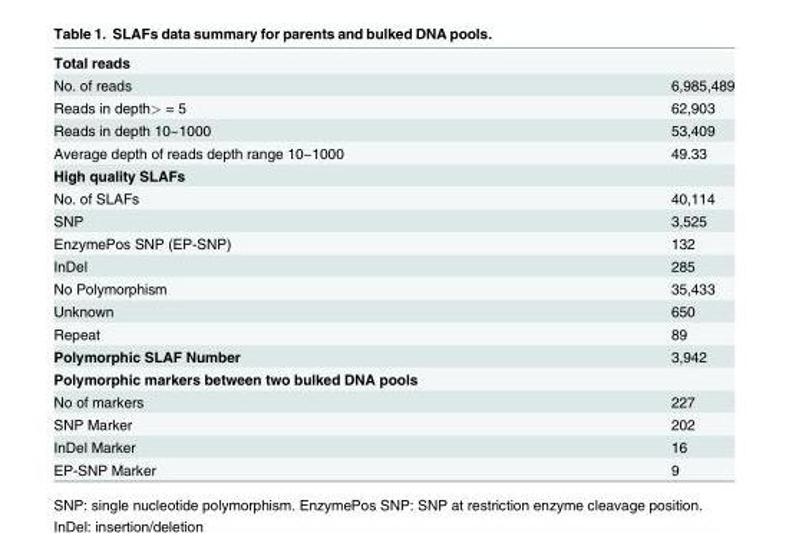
<table><tbody><tr><td colspan="2">Total reads</td></tr><tr><td>No. of reads</td><td>6,985,489</td></tr><tr><td>Reads in depth&gt; = 5</td><td>62,903</td></tr><tr><td>Reads in depth 10~1000</td><td>53,409</td></tr><tr><td>Average depth of reads depth range 10~1000</td><td>49.33</td></tr><tr><td colspan="2">High quality SLAFs</td></tr><tr><td>No. of SLAFs</td><td>40,114</td></tr><tr><td>SNP</td><td>3,525</td></tr><tr><td>EnzymePos SNP (EP-SNP)</td><td>132</td></tr><tr><td>InDel</td><td>285</td></tr><tr><td>No Polymorphism</td><td>35,433</td></tr><tr><td>Unknown</td><td>650</td></tr><tr><td>Repeat</td><td>89</td></tr><tr><td>Polymorphic SLAF Number</td><td>3,942</td></tr><tr><td colspan="2">Polymorphic markers between two bulked DNA pools</td></tr><tr><td>No of markers</td><td>227</td></tr><tr><td>SNP Marker</td><td>202</td></tr><tr><td>InDel Marker</td><td>16</td></tr><tr><td>EP-SNP Marker</td><td>9</td></tr></tbody></table>